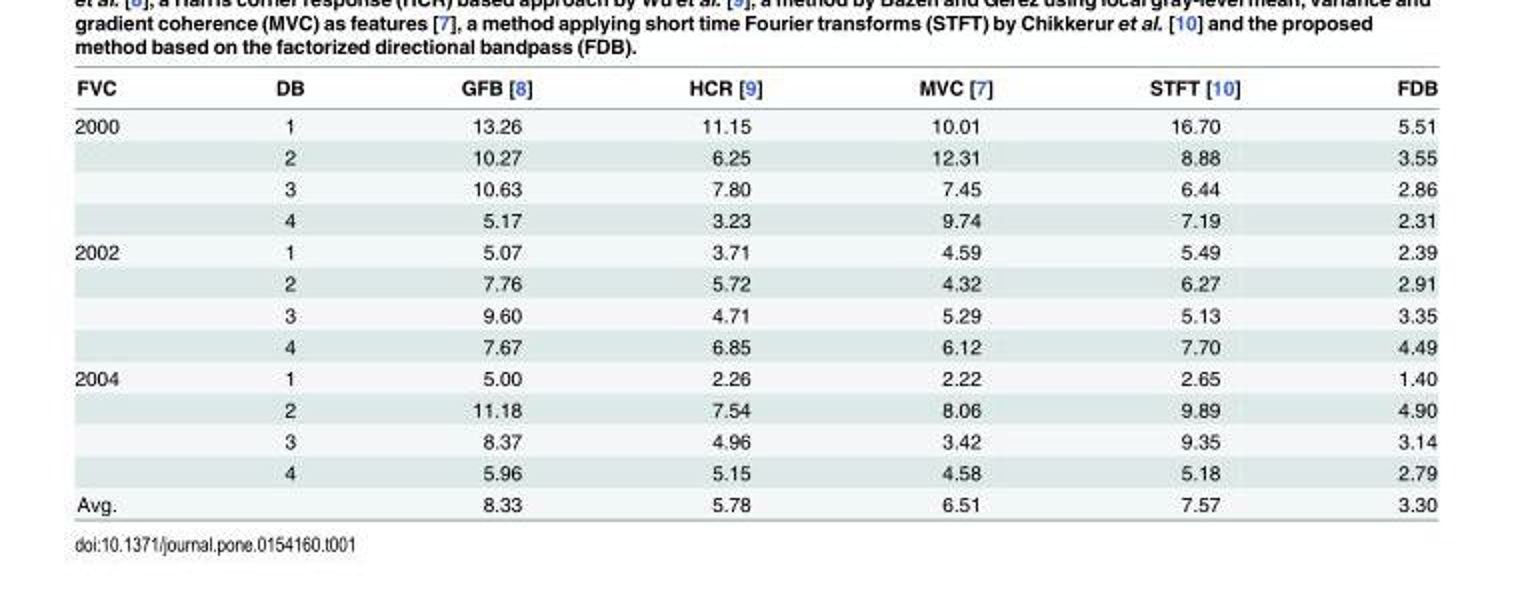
<table><thead><tr><td>FVC</td><td>DB</td><td>GFB [8]</td><td>HCR [9]</td><td>MVC [7]</td><td>STFT [10]</td><td>FDB</td></tr></thead><tbody><tr><td rowspan="4">2000</td><td>1</td><td>13.26</td><td>11.15</td><td>10.01</td><td>16.70</td><td>5.51</td></tr><tr><td>2</td><td>10.27</td><td>6.25</td><td>12.31</td><td>8.88</td><td>3.55</td></tr><tr><td>3</td><td>10.63</td><td>7.80</td><td>7.45</td><td>6.44</td><td>2.86</td></tr><tr><td>4</td><td>5.17</td><td>3.23</td><td>9.74</td><td>7.19</td><td>2.31</td></tr><tr><td rowspan="4">2002</td><td>1</td><td>5.07</td><td>3.71</td><td>4.59</td><td>5.49</td><td>2.39</td></tr><tr><td>2</td><td>7.76</td><td>5.72</td><td>4.32</td><td>6.27</td><td>2.91</td></tr><tr><td>3</td><td>9.60</td><td>4.71</td><td>5.29</td><td>5.13</td><td>3.35</td></tr><tr><td>4</td><td>7.67</td><td>6.85</td><td>6.12</td><td>7.70</td><td>4.49</td></tr><tr><td rowspan="4">2004</td><td>1</td><td>5.00</td><td>2.26</td><td>2.22</td><td>2.65</td><td>1.40</td></tr><tr><td>2</td><td>11.18</td><td>7.54</td><td>8.06</td><td>9.89</td><td>4.90</td></tr><tr><td>3</td><td>8.37</td><td>4.96</td><td>3.42</td><td>9.35</td><td>3.14</td></tr><tr><td>4</td><td>5.96</td><td>5.15</td><td>4.58</td><td>5.18</td><td>2.79</td></tr><tr><td>Avg.</td><td></td><td>8.33</td><td>5.78</td><td>6.51</td><td>7.57</td><td>3.30</td></tr></tbody></table>